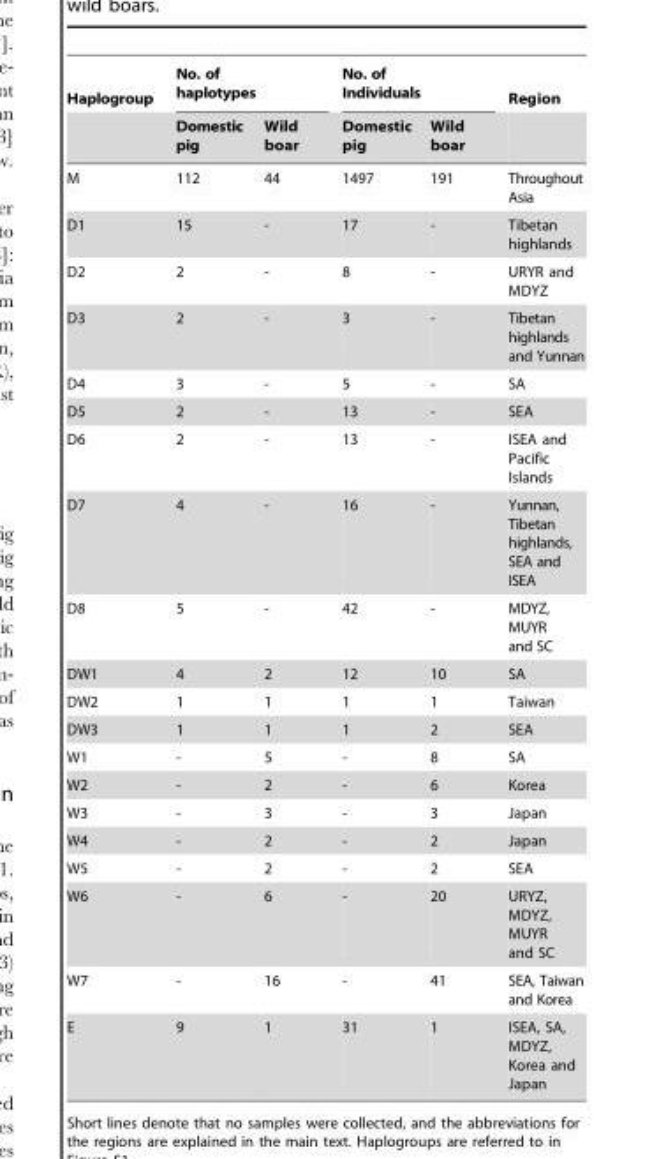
<table><thead><tr><td rowspan="2">Haplogroup</td><td colspan="2">No. of haplotypes</td><td colspan="2">No. of Individuals</td><td rowspan="2">Region</td></tr><tr><td>Domestic pig</td><td>Wild boar</td><td>Domestic pig</td><td>Wild boar</td></tr></thead><tbody><tr><td>M</td><td>112</td><td>44</td><td>1497</td><td>191</td><td>Throughout Asia</td></tr><tr><td>D1</td><td>15</td><td>-</td><td>17</td><td>-</td><td>Tibetan highlands</td></tr><tr><td>D2</td><td>2</td><td>-</td><td>8</td><td>-</td><td>URYR and MDYZ</td></tr><tr><td>D3</td><td>2</td><td>-</td><td>3</td><td>-</td><td>Tibetan highlands and Yunnan</td></tr><tr><td>D4</td><td>3</td><td>-</td><td>5</td><td>-</td><td>SA</td></tr><tr><td>D5</td><td>2</td><td>-</td><td>13</td><td>-</td><td>SEA</td></tr><tr><td>D6</td><td>2</td><td>-</td><td>13</td><td>-</td><td>ISEA and Pacific Islands</td></tr><tr><td>D7</td><td>4</td><td>-</td><td>16</td><td>-</td><td>Yunnan, Tibetan highlands, SEA and ISEA</td></tr><tr><td>D8</td><td>5</td><td>-</td><td>42</td><td>-</td><td>MDYZ, MUYR and SC</td></tr><tr><td>DW1</td><td>4</td><td>2</td><td>12</td><td>10</td><td>SA</td></tr><tr><td>DW2</td><td>1</td><td>1</td><td>1</td><td>1</td><td>Taiwan</td></tr><tr><td>DW3</td><td>1</td><td>1</td><td>1</td><td>2</td><td>SEA</td></tr><tr><td>W1</td><td>-</td><td>5</td><td>-</td><td>8</td><td>SA</td></tr><tr><td>W2</td><td>-</td><td>2</td><td>-</td><td>6</td><td>Korea</td></tr><tr><td>W3</td><td>-</td><td>3</td><td>-</td><td>3</td><td>Japan</td></tr><tr><td>W4</td><td>-</td><td>2</td><td>-</td><td>2</td><td>Japan</td></tr><tr><td>W5</td><td>-</td><td>2</td><td>-</td><td>2</td><td>SEA</td></tr><tr><td>W6</td><td>-</td><td>6</td><td>-</td><td>20</td><td>URYZ, MDYZ, MUYR and SC</td></tr><tr><td>W7</td><td>-</td><td>16</td><td>-</td><td>41</td><td>SEA, Taiwan and Korea</td></tr><tr><td>E</td><td>9</td><td>1</td><td>31</td><td>1</td><td>ISEA, SA, MDYZ, Korea and Japan</td></tr></tbody></table>